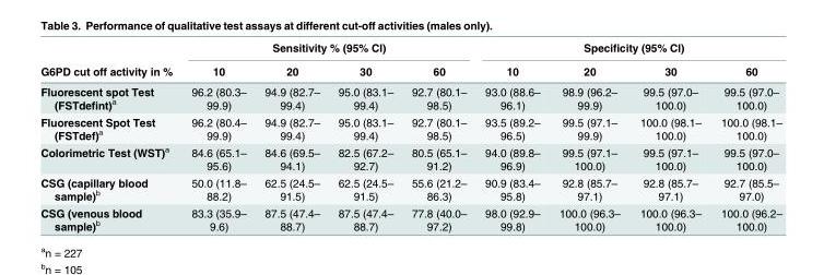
<table><thead><tr><td rowspan="2">G6PD cut off activity in %</td><td colspan="4">Sensitivity % (95% CI)</td><td colspan="4">Specificity (95% CI)</td></tr><tr><td>10</td><td>20</td><td>30</td><td>60</td><td>10</td><td>20</td><td>30</td><td>60</td></tr></thead><tbody><tr><td>Fluorescent spot Test (FSTdefint)<sup>a</sup></td><td>96.2 (80.3– 99.9)</td><td>94.9 (82.7– 99.4)</td><td>95.0 (83.1– 99.4)</td><td>92.7 (80.1– 98.5)</td><td>93.0 (88.6– 96.1)</td><td>98.9 (96.2– 99.9)</td><td>99.5 (97.0– 100.0)</td><td>99.5 (97.0– 100.0)</td></tr><tr><td>Fluorescent Spot Test (FSTdef)<sup>a</sup></td><td>96.2 (80.4– 99.9)</td><td>94.9 (82.7– 99.4)</td><td>95.0 (83.1– 99.4)</td><td>92.7 (80.1– 98.5)</td><td>93.5 (89.2– 96.5)</td><td>99.5 (97.1– 99.9)</td><td>100.0 (98.1– 100.0)</td><td>100.0 (98.1– 100.0)</td></tr><tr><td>Colorimetric Test (WST)<sup>a</sup></td><td>84.6 (65.1– 95.6)</td><td>84.6 (69.5– 94.1)</td><td>82.5 (67.2– 92.7)</td><td>80.5 (65.1– 91.2)</td><td>94.0 (89.8– 96.9)</td><td>99.5 (97.1– 100.0)</td><td>99.5 (97.1– 100.0)</td><td>99.5 (97.0– 100.0)</td></tr><tr><td>CSG (capillary blood sample)<sup>b</sup></td><td>50.0 (11.8– 88.2)</td><td>62.5 (24.5– 91.5)</td><td>62.5 (24.5– 91.5)</td><td>55.6 (21.2– 86.3)</td><td>90.9 (83.4– 95.8)</td><td>92.8 (85.7– 97.1)</td><td>92.8 (85.7– 97.1)</td><td>92.7 (85.5– 97.0)</td></tr><tr><td>CSG (venous blood sample)<sup>b</sup></td><td>83.3 (35.9– 9.6)</td><td>87.5 (47.4– 88.7)</td><td>87.5 (47.4– 88.7)</td><td>77.8 (40.0– 97.2)</td><td>98.0 (92.9– 99.8)</td><td>100.0 (96.3– 100.0)</td><td>100.0 (96.3– 100.0)</td><td>100.0 (96.2– 100.0)</td></tr></tbody></table>